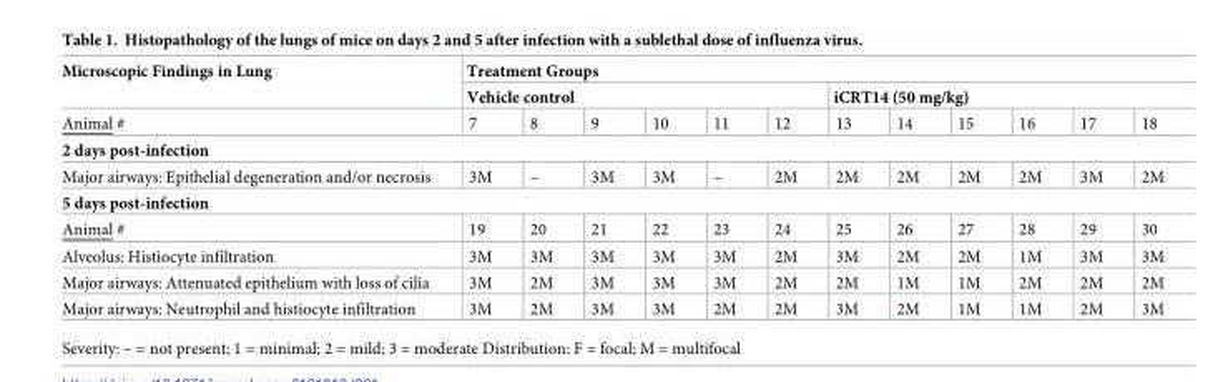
<table><thead><tr><td rowspan="3">Microscopic Findings in Lung Animal #</td><td colspan="12">Treatment Groups</td></tr><tr><td colspan="6">Vehicle control</td><td colspan="6">iCRT14 (50 mg/kg)</td></tr><tr><td>7</td><td>8</td><td>9</td><td>10</td><td>11</td><td>12</td><td>13</td><td>14</td><td>15</td><td>16</td><td>17</td><td>18</td></tr></thead><tbody><tr><td colspan="13">2 days post-infection</td></tr><tr><td>Major airways: Epithelial degeneration and/or necrosis</td><td>3M</td><td>–</td><td>3M</td><td>3M</td><td>–</td><td>2M</td><td>2M</td><td>2M</td><td>2M</td><td>2M</td><td>3M</td><td>2M</td></tr><tr><td colspan="13">5 days post-infection</td></tr><tr><td>Animal #</td><td>19</td><td>20</td><td>21</td><td>22</td><td>23</td><td>24</td><td>25</td><td>26</td><td>27</td><td>28</td><td>29</td><td>30</td></tr><tr><td>Alveolus: Histiocyte infiltration</td><td>3M</td><td>3M</td><td>3M</td><td>3M</td><td>3M</td><td>2M</td><td>3M</td><td>2M</td><td>2M</td><td>1M</td><td>3M</td><td>3M</td></tr><tr><td>Major airways: Attenuated epithelium with loss of cilia</td><td>3M</td><td>2M</td><td>3M</td><td>3M</td><td>3M</td><td>2M</td><td>2M</td><td>1M</td><td>1M</td><td>2M</td><td>2M</td><td>2M</td></tr><tr><td>Major airways: Neutrophil and histiocyte infiltration</td><td>3M</td><td>2M</td><td>3M</td><td>3M</td><td>2M</td><td>2M</td><td>3M</td><td>2M</td><td>1M</td><td>1M</td><td>2M</td><td>3M</td></tr></tbody></table>